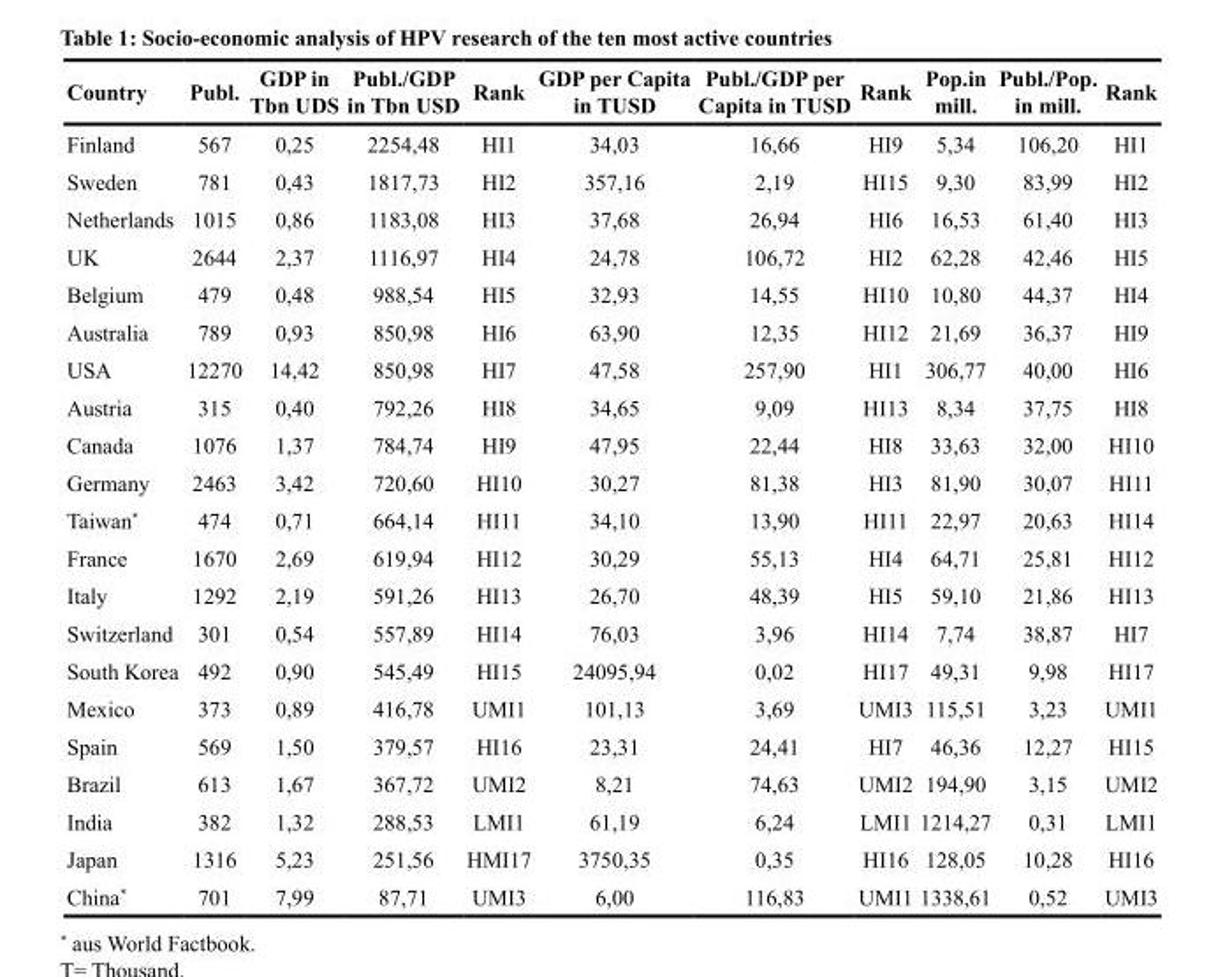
<table><thead><tr><td>Country</td><td>Publ.</td><td>GDP in Tbn UDS</td><td>Publ./GDP in Tbn USD</td><td>Rank</td><td>GDP per Capita in TUSD</td><td>Publ./GDP per Capita in TUSD</td><td>Rank</td><td>Pop.in mill.</td><td>Publ./Pop. in mill.</td><td>Rank</td></tr></thead><tbody><tr><td>Finland</td><td>567</td><td>0,25</td><td>2254,48</td><td>HI1</td><td>34,03</td><td>16,66</td><td>HI9</td><td>5,34</td><td>106,20</td><td>HI1</td></tr><tr><td>Sweden</td><td>781</td><td>0,43</td><td>1817,73</td><td>HI2</td><td>357,16</td><td>2,19</td><td>HI15</td><td>9,30</td><td>83,99</td><td>HI2</td></tr><tr><td>Netherlands</td><td>1015</td><td>0,86</td><td>1183,08</td><td>HI3</td><td>37,68</td><td>26,94</td><td>HI6</td><td>16,53</td><td>61,40</td><td>HI3</td></tr><tr><td>UK</td><td>2644</td><td>2,37</td><td>1116,97</td><td>HI4</td><td>24,78</td><td>106,72</td><td>HI2</td><td>62,28</td><td>42,46</td><td>HI5</td></tr><tr><td>Belgium</td><td>479</td><td>0,48</td><td>988,54</td><td>HI5</td><td>32,93</td><td>14,55</td><td>HI10</td><td>10,80</td><td>44,37</td><td>HI4</td></tr><tr><td>Australia</td><td>789</td><td>0,93</td><td>850,98</td><td>HI6</td><td>63,90</td><td>12,35</td><td>HI12</td><td>21,69</td><td>36,37</td><td>HI9</td></tr><tr><td>USA</td><td>12270</td><td>14,42</td><td>850,98</td><td>HI7</td><td>47,58</td><td>257,90</td><td>HI1</td><td>306,77</td><td>40,00</td><td>HI6</td></tr><tr><td>Austria</td><td>315</td><td>0,40</td><td>792,26</td><td>HI8</td><td>34,65</td><td>9,09</td><td>HI13</td><td>8,34</td><td>37,75</td><td>HI8</td></tr><tr><td>Canada</td><td>1076</td><td>1,37</td><td>784,74</td><td>HI9</td><td>47,95</td><td>22,44</td><td>HI8</td><td>33,63</td><td>32,00</td><td>HI10</td></tr><tr><td>Germany</td><td>2463</td><td>3,42</td><td>720,60</td><td>HI10</td><td>30,27</td><td>81,38</td><td>HI3</td><td>81,90</td><td>30,07</td><td>HI11</td></tr><tr><td>Taiwan*</td><td>474</td><td>0,71</td><td>664,14</td><td>HI11</td><td>34,10</td><td>13,90</td><td>HI11</td><td>22,97</td><td>20,63</td><td>HI14</td></tr><tr><td>France</td><td>1670</td><td>2,69</td><td>619,94</td><td>HI12</td><td>30,29</td><td>55,13</td><td>HI4</td><td>64,71</td><td>25,81</td><td>HI12</td></tr><tr><td>Italy</td><td>1292</td><td>2,19</td><td>591,26</td><td>HI13</td><td>26,70</td><td>48,39</td><td>HI5</td><td>59,10</td><td>21,86</td><td>HI13</td></tr><tr><td>Switzerland</td><td>301</td><td>0,54</td><td>557,89</td><td>HI14</td><td>76,03</td><td>3,96</td><td>HI14</td><td>7,74</td><td>38,87</td><td>HI7</td></tr><tr><td>South Korea</td><td>492</td><td>0,90</td><td>545,49</td><td>HI15</td><td>24095,94</td><td>0,02</td><td>HI17</td><td>49,31</td><td>9,98</td><td>HI17</td></tr><tr><td>Mexico</td><td>373</td><td>0,89</td><td>416,78</td><td>UMI1</td><td>101,13</td><td>3,69</td><td>UMI3</td><td>115,51</td><td>3,23</td><td>UMI1</td></tr><tr><td>Spain</td><td>569</td><td>1,50</td><td>379,57</td><td>HI16</td><td>23,31</td><td>24,41</td><td>HI7</td><td>46,36</td><td>12,27</td><td>HI15</td></tr><tr><td>Brazil</td><td>613</td><td>1,67</td><td>367,72</td><td>UMI2</td><td>8,21</td><td>74,63</td><td>UMI2</td><td>194,90</td><td>3,15</td><td>UMI2</td></tr><tr><td>India</td><td>382</td><td>1,32</td><td>288,53</td><td>LMI1</td><td>61,19</td><td>6,24</td><td>LMI1</td><td>1214,27</td><td>0,31</td><td>LMI1</td></tr><tr><td>Japan</td><td>1316</td><td>5,23</td><td>251,56</td><td>HMI17</td><td>3750,35</td><td>0,35</td><td>HI16</td><td>128,05</td><td>10,28</td><td>HI16</td></tr><tr><td>China*</td><td>701</td><td>7,99</td><td>87,71</td><td>UMI3</td><td>6,00</td><td>116,83</td><td>UMI1</td><td>1338,61</td><td>0,52</td><td>UMI3</td></tr></tbody></table>